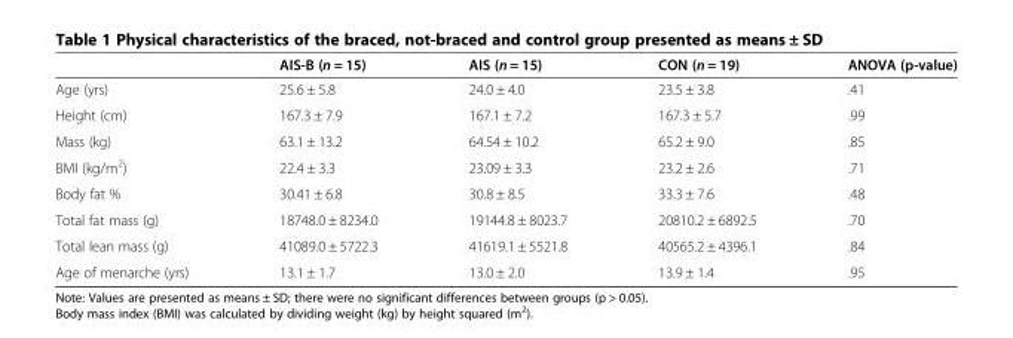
<table><thead><tr><td></td><td>AIS-B (n = 15)</td><td>AIS (n = 15)</td><td>CON (n = 19)</td><td>ANOVA (p-value)</td></tr></thead><tbody><tr><td>Age (yrs)</td><td>25.6 ± 5.8</td><td>24.0 ± 4.0</td><td>23.5 ± 3.8</td><td>.41</td></tr><tr><td>Height (cm)</td><td>167.3 ± 7.9</td><td>167.1 ± 7.2</td><td>167.3 ± 5.7</td><td>.99</td></tr><tr><td>Mass (kg)</td><td>63.1 ± 13.2</td><td>64.54 ± 10.2</td><td>65.2 ± 9.0</td><td>.85</td></tr><tr><td>BMI (kg/m<sup>2</sup>)</td><td>22.4 ± 3.3</td><td>23.09 ± 3.3</td><td>23.2 ± 2.6</td><td>.71</td></tr><tr><td>Body fat %</td><td>30.41 ± 6.8</td><td>30.8 ± 8.5</td><td>33.3 ± 7.6</td><td>.48</td></tr><tr><td>Total fat mass (g)</td><td>18748.0 ± 8234.0</td><td>19144.8 ± 8023.7</td><td>20810.2 ± 6892.5</td><td>.70</td></tr><tr><td>Total lean mass (g)</td><td>41089.0 ± 5722.3</td><td>41619.1 ± 5521.8</td><td>40565.2 ± 4396.1</td><td>.84</td></tr><tr><td>Age of menarche (yrs)</td><td>13.1 ± 1.7</td><td>13.0 ± 2.0</td><td>13.9 ± 1.4</td><td>.95</td></tr></tbody></table>